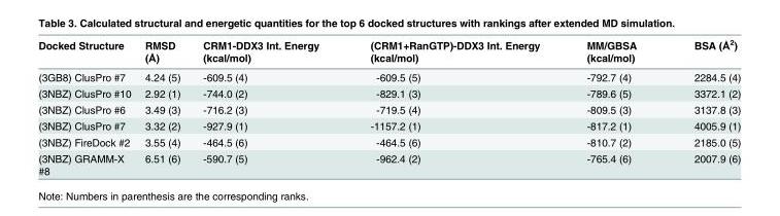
<table><thead><tr><td>Docked Structure</td><td>RMSD (Å)</td><td>CRM1-DDX3 Int. Energy (kcal/mol)</td><td>(CRM1+RanGTP)-DDX3 Int. Energy (kcal/mol)</td><td>MM/GBSA (kcal/mol)</td><td>BSA (Å<sup>2</sup>)</td></tr></thead><tbody><tr><td>(3GB8) ClusPro #7</td><td>4.24 (5)</td><td>-609.5 (4)</td><td>-609.5 (5)</td><td>-792.7 (4)</td><td>2284.5 (4)</td></tr><tr><td>(3NBZ) ClusPro #10</td><td>2.92 (1)</td><td>-744.0 (2)</td><td>-829.1 (3)</td><td>-789.6 (5)</td><td>3372.1 (2)</td></tr><tr><td>(3NBZ) ClusPro #6</td><td>3.49 (3)</td><td>-716.2 (3)</td><td>-719.5 (4)</td><td>-809.5 (3)</td><td>3137.8 (3)</td></tr><tr><td>(3NBZ) ClusPro #7</td><td>3.32 (2)</td><td>-927.9 (1)</td><td>-1157.2 (1)</td><td>-817.2 (1)</td><td>4005.9 (1)</td></tr><tr><td>(3NBZ) FireDock #2</td><td>3.55 (4)</td><td>-464.5 (6)</td><td>-464.5 (6)</td><td>-810.7 (2)</td><td>2185.0 (5)</td></tr><tr><td>(3NBZ) GRAMM-X #8</td><td>6.51 (6)</td><td>-590.7 (5)</td><td>-962.4 (2)</td><td>-765.4 (6)</td><td>2007.9 (6)</td></tr></tbody></table>